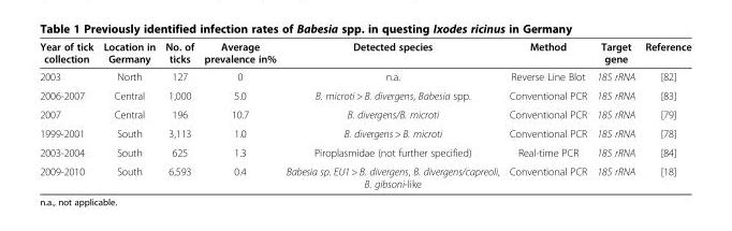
<table><thead><tr><td>Year of tick collection</td><td>Location in Germany</td><td>No. of ticks</td><td>Average prevalence in%</td><td>Detected species</td><td>Method</td><td>Target gene</td><td>Reference</td></tr></thead><tbody><tr><td>2003</td><td>North</td><td>127</td><td>0</td><td>n.a.</td><td>Reverse Line Blot</td><td>18S rRNA</td><td>[82]</td></tr><tr><td>2006-2007</td><td>Central</td><td>1,000</td><td>5.0</td><td>B. microti &gt; B. divergens, Babesia spp.</td><td>Conventional PCR</td><td>18S rRNA</td><td>[83]</td></tr><tr><td>2007</td><td>Central</td><td>196</td><td>10.7</td><td>B. divergens/B. microti</td><td>Conventional PCR</td><td>18S rRNA</td><td>[79]</td></tr><tr><td>1999-2001</td><td>South</td><td>3,113</td><td>1.0</td><td>B. divergens &gt; B. microti</td><td>Conventional PCR</td><td>18S rRNA</td><td>[78]</td></tr><tr><td>2003-2004</td><td>South</td><td>625</td><td>1.3</td><td>Piroplasmidae (not further specified)</td><td>Real-time PCR</td><td>18S rRNA</td><td>[84]</td></tr><tr><td>2009-2010</td><td>South</td><td>6,593</td><td>0.4</td><td>Babesia sp. EU1 &gt; B. divergens, B. divergens/capreoli, B. gibsoni-like</td><td>Conventional PCR</td><td>18S rRNA</td><td>[18]</td></tr></tbody></table>